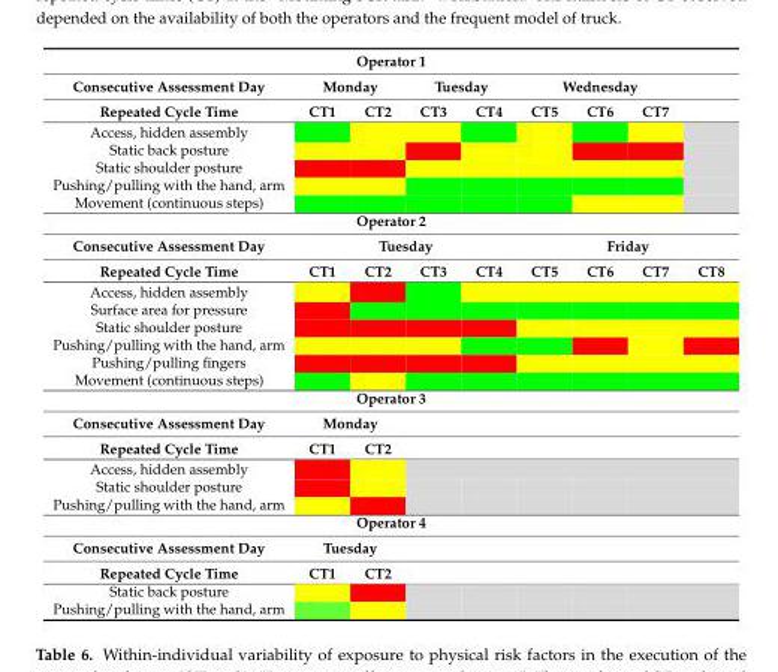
<table><tbody><tr><td colspan="9">Operator 1</td></tr><tr><td>Consecutive Assessment Day</td><td colspan="2">Monday</td><td colspan="2">Tuesday</td><td colspan="3">Wednesday</td><td></td></tr><tr><td>Repeated Cycle Time</td><td>CT1</td><td>CT2</td><td>CT3</td><td>CT4</td><td>CT5</td><td>CT6</td><td>CT7</td><td></td></tr><tr><td colspan="9">Access, hidden assembly</td></tr><tr><td colspan="9">Static back posture</td></tr><tr><td colspan="9">Static shoulder posture</td></tr><tr><td colspan="9">Pushing/pulling with the hand, arm</td></tr><tr><td colspan="9">Movement (continuous steps)</td></tr><tr><td colspan="9">Operator 2</td></tr><tr><td>Consecutive Assessment Day</td><td colspan="4">Tuesday</td><td colspan="4">Friday</td></tr><tr><td>Repeated Cycle Time</td><td>CT1</td><td>CT2</td><td>CT3</td><td>CT4</td><td>CT5</td><td>CT6</td><td>CT7</td><td>CT8</td></tr><tr><td colspan="9">Access, hidden assembly</td></tr><tr><td colspan="9">Surface area for pressure</td></tr><tr><td colspan="9">Static shoulder posture</td></tr><tr><td colspan="9">Pushing/pulling with the hand, arm</td></tr><tr><td colspan="9">Pushing/pulling fingers</td></tr><tr><td colspan="9">Movement (continuous steps)</td></tr><tr><td colspan="9">Operator 3</td></tr><tr><td>Consecutive Assessment Day</td><td colspan="2">Monday</td><td></td><td></td><td></td><td></td><td></td><td></td></tr><tr><td>Repeated Cycle Time</td><td>CT1</td><td>CT2</td><td></td><td></td><td></td><td></td><td></td><td></td></tr><tr><td colspan="9">Access, hidden assembly</td></tr><tr><td colspan="9">Static shoulder posture</td></tr><tr><td colspan="9">Pushing/pulling with the hand, arm</td></tr><tr><td colspan="9">Operator 4</td></tr><tr><td>Consecutive Assessment Day</td><td colspan="2">Tuesday</td><td></td><td></td><td></td><td></td><td></td><td></td></tr><tr><td>Repeated Cycle Time</td><td>CT1</td><td>CT2</td><td></td><td></td><td></td><td></td><td></td><td></td></tr><tr><td colspan="9">Static back posture</td></tr><tr><td>Pushing/pulling with the hand, arm</td><td></td><td></td><td></td><td></td><td></td><td></td><td></td><td></td></tr></tbody></table>